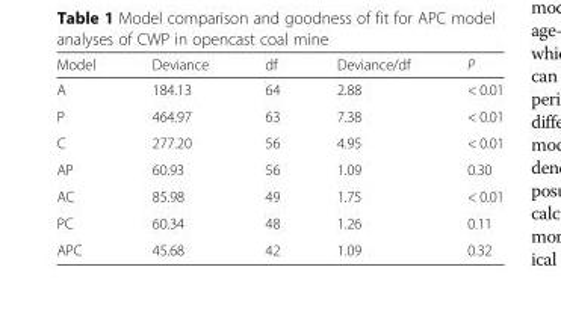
<table><thead><tr><td>Model</td><td>Deviance</td><td>df</td><td>Deviance/df</td><td>P</td></tr></thead><tbody><tr><td>A</td><td>184.13</td><td>64</td><td>2.88</td><td>&lt; 0.01</td></tr><tr><td>P</td><td>464.97</td><td>63</td><td>7.38</td><td>&lt; 0.01</td></tr><tr><td>C</td><td>277.20</td><td>56</td><td>4.95</td><td>&lt; 0.01</td></tr><tr><td>AP</td><td>60.93</td><td>56</td><td>1.09</td><td>0.30</td></tr><tr><td>AC</td><td>85.98</td><td>49</td><td>1.75</td><td>&lt; 0.01</td></tr><tr><td>PC</td><td>60.34</td><td>48</td><td>1.26</td><td>0.11</td></tr><tr><td>APC</td><td>45.68</td><td>42</td><td>1.09</td><td>0.32</td></tr></tbody></table>